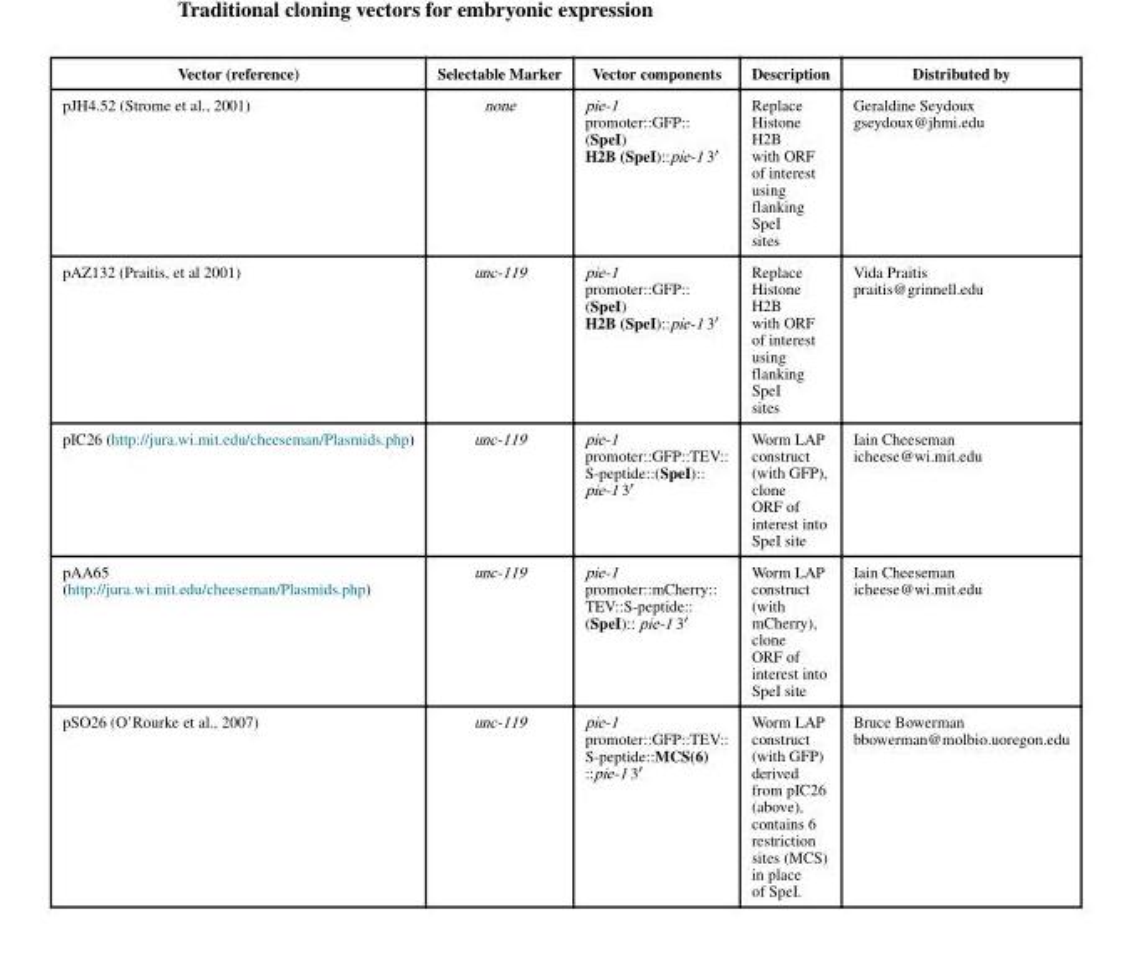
<table><thead><tr><td>Vector (reference)</td><td>Selectable Marker</td><td>Vector components</td><td>Description</td><td>Distributed by</td></tr></thead><tbody><tr><td>pJH4.52 (Strome et al., 2001)</td><td>none</td><td>pie-1 promoter::GFP:: (SpeI) H2B (SpeI)::pie-1 3′</td><td>Replace Histone H2B with ORF of interest using flanking SpeI sites</td><td>Geraldine Seydoux gseydoux@jhmi.edu</td></tr><tr><td>pAZ132 (Praitis, et al 2001)</td><td>unc-119</td><td>pie-1 promoter::GFP:: (SpeI) H2B (SpeI)::pie-1 3′</td><td>Replace Histone H2B with ORF of interest using flanking SpeI sites</td><td>Vida Praitis praitis@grinnell.edu</td></tr><tr><td>pIC26 (http://jura.wi.mit.edu/cheeseman/Plasmids.php)</td><td>unc-119</td><td>pie-1 promoter::GFP::TEV:: S-peptide::(SpeI):: pie-1 3′</td><td>Worm LAP construct (with GFP), clone ORF of interest into SpeI site</td><td>Iain Cheeseman icheese@wi.mit.edu</td></tr><tr><td>pAA65 (http://jura.wi.mit.edu/cheeseman/Plasmids.php)</td><td>unc-119</td><td>pie-1 promoter::mCherry:: TEV::S-peptide:: (SpeI):: pie-1 3′</td><td>Worm LAP construct (with mCherry), clone ORF of interest into SpeI site</td><td>Iain Cheeseman icheese@wi.mit.edu</td></tr><tr><td>pSO26 (O’Rourke et al., 2007)</td><td>unc-119</td><td>pie-1 promoter::GFP::TEV:: S-peptide::MCS(6) ::pie-1 3′</td><td>Worm LAP construct (with GFP) derived from pIC26 (above), contains 6 restriction sites (MCS) in place of SpeI.</td><td>Bruce Bowerman bbowerman@molbio.uoregon.edu</td></tr></tbody></table>